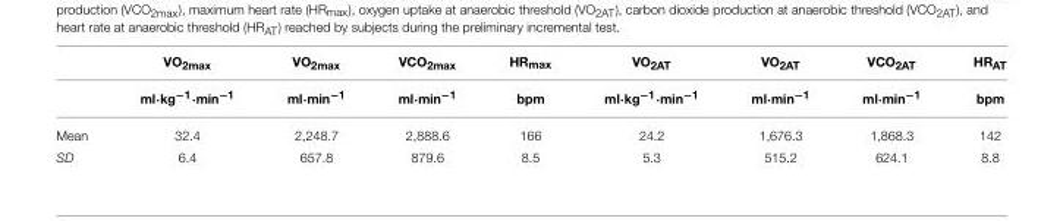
<table><thead><tr><td rowspan="2"></td><td rowspan="2">VO<sub>2max</sub> ml·kg<sup>−1</sup>·min<sup>−1</sup></td><td rowspan="2">VO<sub>2max</sub> ml·min<sup>−1</sup></td><td rowspan="2">VCO<sub>2max</sub> ml·min<sup>−1</sup></td><td rowspan="2">HR<sub>max</sub> bpm</td><td rowspan="2">VO<sub>2AT</sub> ml·kg<sup>−1</sup>·min<sup>−1</sup></td><td rowspan="2">VO<sub>2AT</sub> ml·min<sup>−1</sup></td><td rowspan="2">VCO<sub>2AT</sub> ml·min<sup>−1</sup></td><td rowspan="2">HR<sub>AT</sub> bpm</td></tr><tr></tr></thead><tbody><tr><td>Mean</td><td>32.4</td><td>2,248.7</td><td>2,888.6</td><td>166</td><td>24.2</td><td>1,676.3</td><td>1,868.3</td><td>142</td></tr><tr><td>SD</td><td>6.4</td><td>657.8</td><td>879.6</td><td>8.5</td><td>5.3</td><td>515.2</td><td>624.1</td><td>8.8</td></tr></tbody></table>